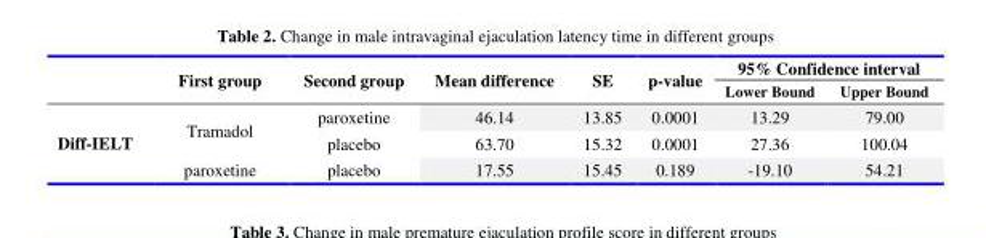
<table><thead><tr><td rowspan="2"></td><td rowspan="2">First group</td><td rowspan="2">Second group</td><td rowspan="2">Mean difference</td><td rowspan="2">SE</td><td rowspan="2">p-value</td><td colspan="2">95% Confidence interval</td></tr><tr><td>Lower Bound</td><td>Upper Bound</td></tr></thead><tbody><tr><td rowspan="3">Diff-IELT</td><td rowspan="2">Tramadol</td><td>paroxetine</td><td>46.14</td><td>13.85</td><td>0.0001</td><td>13.29</td><td>79.00</td></tr><tr><td>placebo</td><td>63.70</td><td>15.32</td><td>0.0001</td><td>27.36</td><td>100.04</td></tr><tr><td>paroxetine</td><td>placebo</td><td>17.55</td><td>15.45</td><td>0.189</td><td>-19.10</td><td>54.21</td></tr></tbody></table>